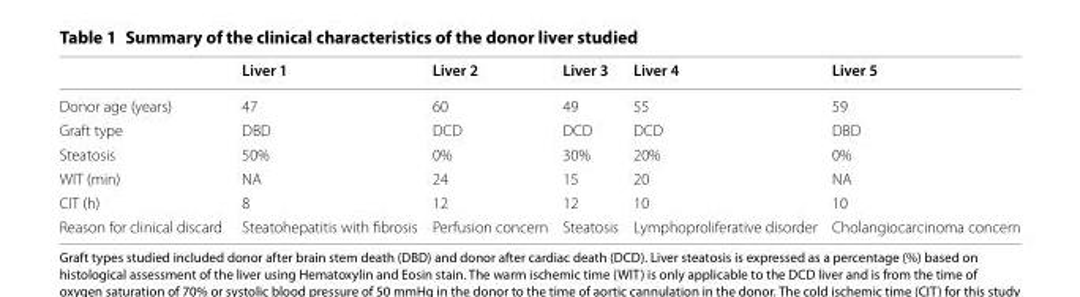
<table><thead><tr><td></td><td>Liver 1</td><td>Liver 2</td><td>Liver 3</td><td>Liver 4</td><td>Liver 5</td></tr></thead><tbody><tr><td>Donor age (years)</td><td>47</td><td>60</td><td>49</td><td>55</td><td>59</td></tr><tr><td>Graft type</td><td>DBD</td><td>DCD</td><td>DCD</td><td>DCD</td><td>DBD</td></tr><tr><td>Steatosis</td><td>50%</td><td>0%</td><td>30%</td><td>20%</td><td>0%</td></tr><tr><td>WIT (min)</td><td>NA</td><td>24</td><td>15</td><td>20</td><td>NA</td></tr><tr><td>CIT (h)</td><td>8</td><td>12</td><td>12</td><td>10</td><td>10</td></tr><tr><td>Reason for clinical discard</td><td>Steatohepatitis with fibrosis</td><td>Perfusion concern</td><td>Steatosis</td><td>Lymphoproliferative disorder</td><td>Cholangiocarcinoma concern</td></tr></tbody></table>